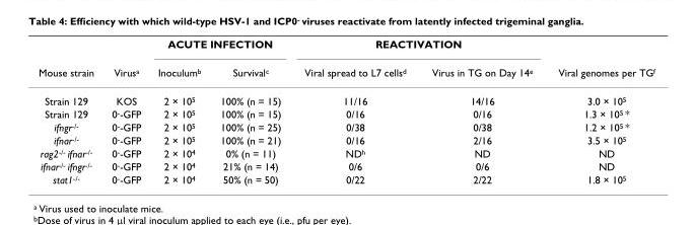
<table><thead><tr><td rowspan="2">Mouse strain</td><td rowspan="2">Virus<sup>a</sup></td><td colspan="2">ACUTE INFECTION</td><td colspan="2">REACTIVATION</td><td rowspan="2">Viral genomes per TG<sup>f</sup></td></tr><tr><td>Inoculum<sup>b</sup></td><td>Survival<sup>c</sup></td><td>Viral spread to L7 cells<sup>d</sup></td><td>Virus in TG on Day 14<sup>e</sup></td></tr></thead><tbody><tr><td>Strain 129</td><td>KOS</td><td>2 × 10<sup>5</sup></td><td>100% (n = 15)</td><td>11/16</td><td>14/16</td><td>3.0 × 10<sup>5</sup></td></tr><tr><td>Strain 129</td><td>0<sup>-</sup>-GFP</td><td>2 × 10<sup>5</sup></td><td>100% (n = 15)</td><td>0/16</td><td>0/16</td><td>1.3 × 10<sup>5</sup> *</td></tr><tr><td>ifngr<sup>-/-</sup></td><td>0<sup>-</sup>-GFP</td><td>2 × 10<sup>5</sup></td><td>100% (n = 25)</td><td>0/38</td><td>0/38</td><td>1.2 × 10<sup>5</sup> *</td></tr><tr><td>ifnar<sup>-/-</sup></td><td>0<sup>-</sup>-GFP</td><td>2 × 10<sup>5</sup></td><td>100% (n = 21)</td><td>0/16</td><td>2/16</td><td>3.5 × 10<sup>5</sup></td></tr><tr><td>rag2<sup>-/-</sup> ifnar<sup>-/-</sup></td><td>0<sup>-</sup>-GFP</td><td>2 × 10<sup>4</sup></td><td>0% (n = 11)</td><td>ND<sup>h</sup></td><td>ND</td><td>ND</td></tr><tr><td>ifnar<sup>-/-</sup> ifngr<sup>-/-</sup></td><td>0<sup>-</sup>-GFP</td><td>2 × 10<sup>4</sup></td><td>21% (n = 14)</td><td>0/6</td><td>0/6</td><td>ND</td></tr><tr><td>stat1<sup>-/-</sup></td><td>0<sup>-</sup>-GFP</td><td>2 × 10<sup>4</sup></td><td>50% (n = 50)</td><td>0/22</td><td>2/22</td><td>1.8 × 10<sup>5</sup></td></tr></tbody></table>